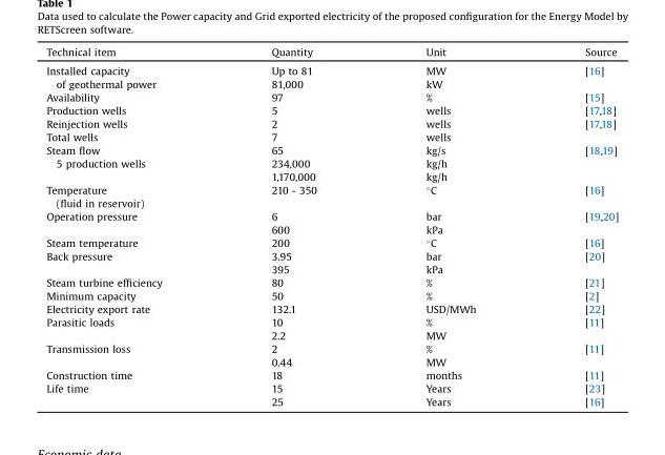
<table><thead><tr><td>Technical item</td><td>Quantity</td><td>Unit</td><td>Source</td></tr></thead><tbody><tr><td>Installed capacity of geothermal power</td><td>Up to 81 81,000</td><td>MW kW</td><td>[16]</td></tr><tr><td>Availability</td><td>97</td><td>%</td><td>[15]</td></tr><tr><td>Production wells</td><td>5</td><td>wells</td><td>[17,18]</td></tr><tr><td>Reinjection wells</td><td>2</td><td>wells</td><td>[17,18]</td></tr><tr><td>Total wells</td><td>7</td><td>wells</td><td></td></tr><tr><td>Steam flow 5 production wells</td><td>65 234,000 1,170,000</td><td>kg/s kg/h kg/h</td><td>[18,19]</td></tr><tr><td>Temperature (fluid in reservoir)</td><td>210 - 350</td><td>°C</td><td>[16]</td></tr><tr><td>Operation pressure</td><td>6 600</td><td>bar kPa</td><td>[19,20]</td></tr><tr><td>Steam temperature</td><td>200</td><td>°C</td><td>[16]</td></tr><tr><td>Back pressure</td><td>3.95 395</td><td>bar kPa</td><td>[20]</td></tr><tr><td>Steam turbine efficiency</td><td>80</td><td>%</td><td>[21]</td></tr><tr><td>Minimum capacity</td><td>50</td><td>%</td><td>[2]</td></tr><tr><td>Electricity export rate</td><td>132.1</td><td>USD/MWh</td><td>[22]</td></tr><tr><td>Parasitic loads</td><td>10 2.2</td><td>% MW</td><td>[11]</td></tr><tr><td>Transmission loss</td><td>2 0.44</td><td>% MW</td><td>[11]</td></tr><tr><td>Construction time</td><td>18</td><td>months</td><td>[11]</td></tr><tr><td>Life time</td><td>15 25</td><td>Years Years</td><td>[23] [16]</td></tr></tbody></table>